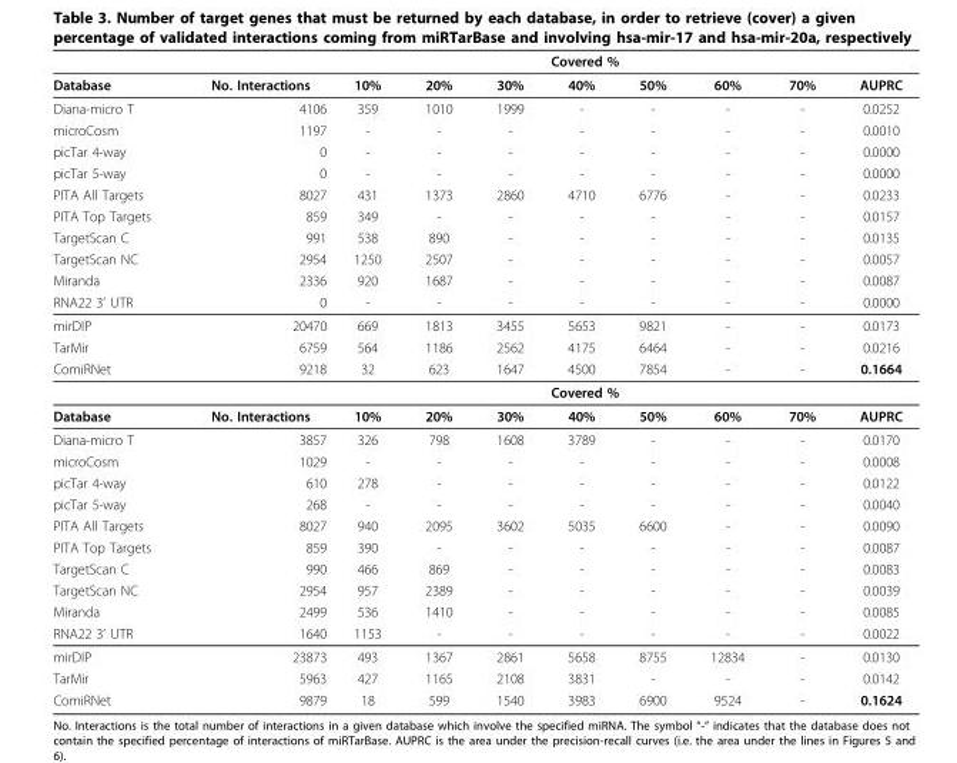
<table><thead><tr><td rowspan="2">Database</td><td rowspan="2">No. Interactions</td><td colspan="7">Covered %</td><td rowspan="2">AUPRC</td></tr><tr><td>10%</td><td>20%</td><td>30%</td><td>40%</td><td>50%</td><td>60%</td><td>70%</td></tr></thead><tbody><tr><td>Diana-micro T</td><td>4106</td><td>359</td><td>1010</td><td>1999</td><td>-</td><td>-</td><td>-</td><td>-</td><td>0.0252</td></tr><tr><td>microCosm</td><td>1197</td><td>-</td><td>-</td><td>-</td><td>-</td><td>-</td><td>-</td><td>-</td><td>0.0010</td></tr><tr><td>picTar 4-way</td><td>0</td><td>-</td><td>-</td><td>-</td><td>-</td><td>-</td><td>-</td><td>-</td><td>0.0000</td></tr><tr><td>picTar 5-way</td><td>0</td><td>-</td><td>-</td><td>-</td><td>-</td><td>-</td><td>-</td><td>-</td><td>0.0000</td></tr><tr><td>PITA All Targets</td><td>8027</td><td>431</td><td>1373</td><td>2860</td><td>4710</td><td>6776</td><td>-</td><td>-</td><td>0.0233</td></tr><tr><td>PITA Top Targets</td><td>859</td><td>349</td><td>-</td><td>-</td><td>-</td><td>-</td><td>-</td><td>-</td><td>0.0157</td></tr><tr><td>TargetScan C</td><td>991</td><td>538</td><td>890</td><td>-</td><td>-</td><td>-</td><td>-</td><td>-</td><td>0.0135</td></tr><tr><td>TargetScan NC</td><td>2954</td><td>1250</td><td>2507</td><td>-</td><td>-</td><td>-</td><td>-</td><td>-</td><td>0.0057</td></tr><tr><td>Miranda</td><td>2336</td><td>920</td><td>1687</td><td>-</td><td>-</td><td>-</td><td>-</td><td>-</td><td>0.0087</td></tr><tr><td>RNA22 3’ UTR</td><td>0</td><td>-</td><td>-</td><td>-</td><td>-</td><td>-</td><td>-</td><td>-</td><td>0.0000</td></tr><tr><td>mirDIP</td><td>20470</td><td>669</td><td>1813</td><td>3455</td><td>5653</td><td>9821</td><td>-</td><td>-</td><td>0.0173</td></tr><tr><td>TarMir</td><td>6759</td><td>564</td><td>1186</td><td>2562</td><td>4175</td><td>6464</td><td>-</td><td>-</td><td>0.0216</td></tr><tr><td rowspan="2">ComiRNet</td><td>9218</td><td>32</td><td>623</td><td>1647</td><td>4500</td><td>7854</td><td>-</td><td>-</td><td>0.1664</td></tr><tr><td></td><td colspan="7">Covered %</td><td></td></tr><tr><td>Database</td><td>No. Interactions</td><td>10%</td><td>20%</td><td>30%</td><td>40%</td><td>50%</td><td>60%</td><td>70%</td><td>AUPRC</td></tr><tr><td>Diana-micro T</td><td>3857</td><td>326</td><td>798</td><td>1608</td><td>3789</td><td>-</td><td>-</td><td>-</td><td>0.0170</td></tr><tr><td>microCosm</td><td>1029</td><td>-</td><td>-</td><td>-</td><td>-</td><td>-</td><td>-</td><td>-</td><td>0.0008</td></tr><tr><td>picTar 4-way</td><td>610</td><td>278</td><td>-</td><td>-</td><td>-</td><td>-</td><td>-</td><td>-</td><td>0.0122</td></tr><tr><td>picTar 5-way</td><td>268</td><td>-</td><td>-</td><td>-</td><td>-</td><td>-</td><td>-</td><td>-</td><td>0.0040</td></tr><tr><td>PITA All Targets</td><td>8027</td><td>940</td><td>2095</td><td>3602</td><td>5035</td><td>6600</td><td>-</td><td>-</td><td>0.0090</td></tr><tr><td>PITA Top Targets</td><td>859</td><td>390</td><td>-</td><td>-</td><td>-</td><td>-</td><td>-</td><td>-</td><td>0.0087</td></tr><tr><td>TargetScan C</td><td>990</td><td>466</td><td>869</td><td>-</td><td>-</td><td>-</td><td>-</td><td>-</td><td>0.0083</td></tr><tr><td>TargetScan NC</td><td>2954</td><td>957</td><td>2389</td><td>-</td><td>-</td><td>-</td><td>-</td><td>-</td><td>0.0039</td></tr><tr><td>Miranda</td><td>2499</td><td>536</td><td>1410</td><td>-</td><td>-</td><td>-</td><td>-</td><td>-</td><td>0.0085</td></tr><tr><td>RNA22 3’ UTR</td><td>1640</td><td>1153</td><td>-</td><td>-</td><td>-</td><td>-</td><td>-</td><td>-</td><td>0.0022</td></tr><tr><td>mirDIP</td><td>23873</td><td>493</td><td>1367</td><td>2861</td><td>5658</td><td>8755</td><td>12834</td><td>-</td><td>0.0130</td></tr><tr><td>TarMir</td><td>5963</td><td>427</td><td>1165</td><td>2108</td><td>3831</td><td>-</td><td>-</td><td>-</td><td>0.0142</td></tr><tr><td>ComiRNet</td><td>9879</td><td>18</td><td>599</td><td>1540</td><td>3983</td><td>6900</td><td>9524</td><td>-</td><td>0.1624</td></tr></tbody></table>